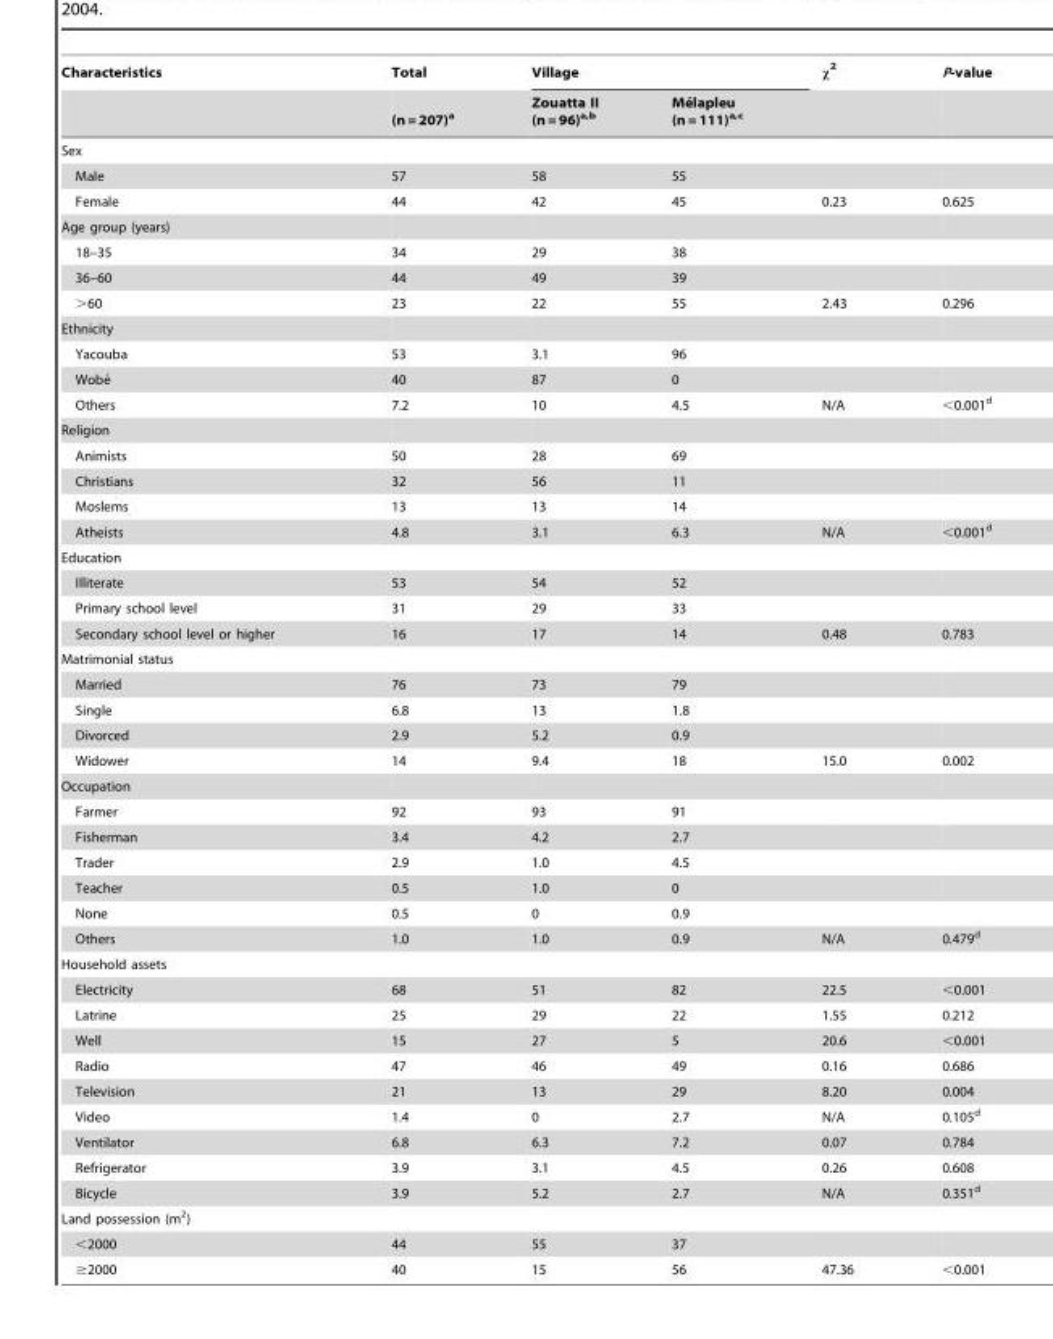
<table><thead><tr><td rowspan="2">Characteristics</td><td rowspan="2">Total (n = 207)<sup>a</sup></td><td colspan="2">Village</td><td rowspan="2">χ <sup>2</sup></td><td rowspan="2">P-value</td></tr><tr><td>Zouatta II (n = 96)a,b</td><td>Me´lapleu (n = 111)a,c</td></tr></thead><tbody><tr><td colspan="6">Sex</td></tr><tr><td>Male</td><td>57</td><td>58</td><td>55</td><td></td><td></td></tr><tr><td>Female</td><td>44</td><td>42</td><td>45</td><td>0.23</td><td>0.625</td></tr><tr><td colspan="6">Age group (years)</td></tr><tr><td>18–35</td><td>34</td><td>29</td><td>38</td><td></td><td></td></tr><tr><td>36–60</td><td>44</td><td>49</td><td>39</td><td></td><td></td></tr><tr><td>&gt;60</td><td>23</td><td>22</td><td>55</td><td>2.43</td><td>0.296</td></tr><tr><td colspan="6">Ethnicity</td></tr><tr><td>Yacouba</td><td>53</td><td>3.1</td><td>96</td><td></td><td></td></tr><tr><td>Wobe´</td><td>40</td><td>87</td><td>0</td><td></td><td></td></tr><tr><td>Others</td><td>7.2</td><td>10</td><td>4.5</td><td>N/A</td><td>&lt;0.001<sup>d</sup></td></tr><tr><td colspan="6">Religion</td></tr><tr><td>Animists</td><td>50</td><td>28</td><td>69</td><td></td><td></td></tr><tr><td>Christians</td><td>32</td><td>56</td><td>11</td><td></td><td></td></tr><tr><td>Moslems</td><td>13</td><td>13</td><td>14</td><td></td><td></td></tr><tr><td>Atheists</td><td>4.8</td><td>3.1</td><td>6.3</td><td>N/A</td><td>&lt;0.001<sup>d</sup></td></tr><tr><td colspan="6">Education</td></tr><tr><td>Illiterate</td><td>53</td><td>54</td><td>52</td><td></td><td></td></tr><tr><td>Primary school level</td><td>31</td><td>29</td><td>33</td><td></td><td></td></tr><tr><td>Secondary school level or higher</td><td>16</td><td>17</td><td>14</td><td>0.48</td><td>0.783</td></tr><tr><td colspan="6">Matrimonial status</td></tr><tr><td>Married</td><td>76</td><td>73</td><td>79</td><td></td><td></td></tr><tr><td>Single</td><td>6.8</td><td>13</td><td>1.8</td><td></td><td></td></tr><tr><td>Divorced</td><td>2.9</td><td>5.2</td><td>0.9</td><td></td><td></td></tr><tr><td>Widower</td><td>14</td><td>9.4</td><td>18</td><td>15.0</td><td>0.002</td></tr><tr><td colspan="6">Occupation</td></tr><tr><td>Farmer</td><td>92</td><td>93</td><td>91</td><td></td><td></td></tr><tr><td>Fisherman</td><td>3.4</td><td>4.2</td><td>2.7</td><td></td><td></td></tr><tr><td>Trader</td><td>2.9</td><td>1.0</td><td>4.5</td><td></td><td></td></tr><tr><td>Teacher</td><td>0.5</td><td>1.0</td><td>0</td><td></td><td></td></tr><tr><td>None</td><td>0.5</td><td>0</td><td>0.9</td><td></td><td></td></tr><tr><td>Others</td><td>1.0</td><td>1.0</td><td>0.9</td><td>N/A</td><td>0.479<sup>d</sup></td></tr><tr><td colspan="6">Household assets</td></tr><tr><td>Electricity</td><td>68</td><td>51</td><td>82</td><td>22.5</td><td>&lt;0.001</td></tr><tr><td>Latrine</td><td>25</td><td>29</td><td>22</td><td>1.55</td><td>0.212</td></tr><tr><td>Well</td><td>15</td><td>27</td><td>5</td><td>20.6</td><td>&lt;0.001</td></tr><tr><td>Radio</td><td>47</td><td>46</td><td>49</td><td>0.16</td><td>0.686</td></tr><tr><td>Television</td><td>21</td><td>13</td><td>29</td><td>8.20</td><td>0.004</td></tr><tr><td>Video</td><td>1.4</td><td>0</td><td>2.7</td><td>N/A</td><td>0.105<sup>d</sup></td></tr><tr><td>Ventilator</td><td>6.8</td><td>6.3</td><td>7.2</td><td>0.07</td><td>0.784</td></tr><tr><td>Refrigerator</td><td>3.9</td><td>3.1</td><td>4.5</td><td>0.26</td><td>0.608</td></tr><tr><td>Bicycle</td><td>3.9</td><td>5.2</td><td>2.7</td><td>N/A</td><td>0.351<sup>d</sup></td></tr><tr><td colspan="6">Land possession (m<sup>2</sup>)</td></tr><tr><td>&lt;2000</td><td>44</td><td>55</td><td>37</td><td></td><td></td></tr><tr><td>≥2000</td><td>40</td><td>15</td><td>56</td><td>47.36</td><td>&lt;0.001</td></tr></tbody></table>